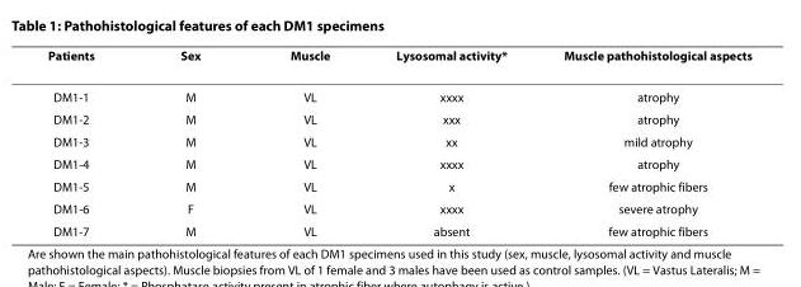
<table><thead><tr><td>Patients</td><td>Sex</td><td>Muscle</td><td>Lysosomal activity*</td><td>Muscle pathohistological aspects</td></tr></thead><tbody><tr><td>DM1-1</td><td>M</td><td>VL</td><td>xxxx</td><td>atrophy</td></tr><tr><td>DM1-2</td><td>M</td><td>VL</td><td>xxx</td><td>atrophy</td></tr><tr><td>DM1-3</td><td>M</td><td>VL</td><td>xx</td><td>mild atrophy</td></tr><tr><td>DM1-4</td><td>M</td><td>VL</td><td>xxxx</td><td>atrophy</td></tr><tr><td>DM1-5</td><td>M</td><td>VL</td><td>x</td><td>few atrophic fibers</td></tr><tr><td>DM1-6</td><td>F</td><td>VL</td><td>xxxx</td><td>severe atrophy</td></tr><tr><td>DM1-7</td><td>M</td><td>VL</td><td>absent</td><td>few atrophic fibers</td></tr></tbody></table>